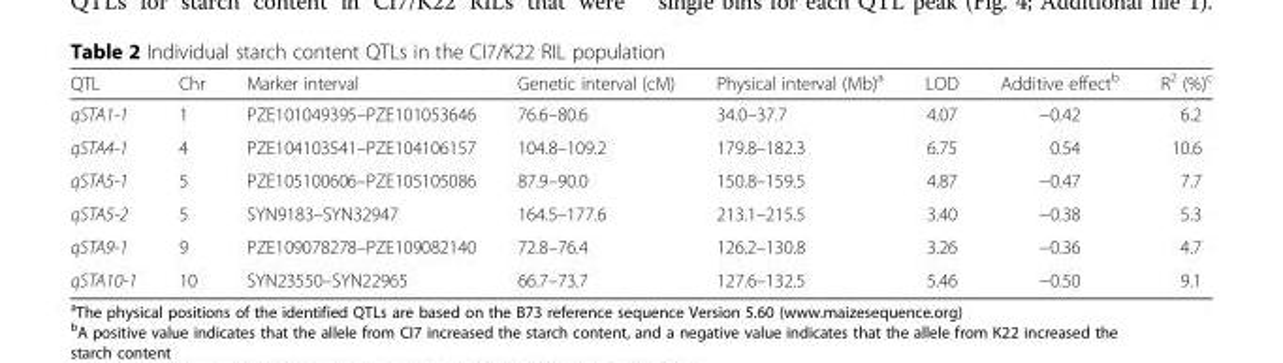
<table><thead><tr><td>QTL</td><td>Chr</td><td>Marker interval</td><td>Genetic interval (cM)</td><td>Physical interval (Mb)<sup>a</sup></td><td>LOD</td><td>Additive effect<sup>b</sup></td><td>R<sup>2</sup> (%)<sup>c</sup></td></tr></thead><tbody><tr><td>qSTA1-1</td><td>1</td><td>PZE101049395–PZE101053646</td><td>76.6–80.6</td><td>34.0–37.7</td><td>4.07</td><td>−0.42</td><td>6.2</td></tr><tr><td>qSTA4-1</td><td>4</td><td>PZE104103541–PZE104106157</td><td>104.8–109.2</td><td>179.8–182.3</td><td>6.75</td><td>0.54</td><td>10.6</td></tr><tr><td>qSTA5-1</td><td>5</td><td>PZE105100606–PZE105105086</td><td>87.9–90.0</td><td>150.8–159.5</td><td>4.87</td><td>−0.47</td><td>7.7</td></tr><tr><td>qSTA5-2</td><td>5</td><td>SYN9183–SYN32947</td><td>164.5–177.6</td><td>213.1–215.5</td><td>3.40</td><td>−0.38</td><td>5.3</td></tr><tr><td>qSTA9-1</td><td>9</td><td>PZE109078278–PZE109082140</td><td>72.8–76.4</td><td>126.2–130.8</td><td>3.26</td><td>−0.36</td><td>4.7</td></tr><tr><td>qSTA10-1</td><td>10</td><td>SYN23550–SYN22965</td><td>66.7–73.7</td><td>127.6–132.5</td><td>5.46</td><td>−0.50</td><td>9.1</td></tr></tbody></table>